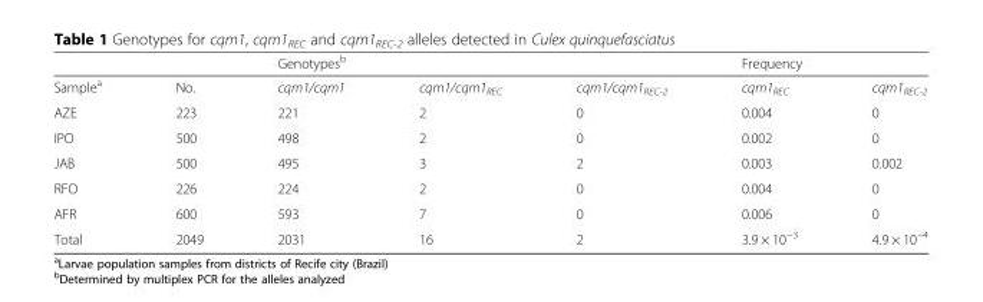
<table><thead><tr><td rowspan="2">Sample<sup>a</sup></td><td rowspan="2">No.</td><td colspan="3">Genotypes<sup>b</sup></td><td colspan="2">Frequency</td></tr><tr><td>cqm1/cqm1</td><td>cqm1/cqm1<sub>REC</sub></td><td>cqm1/cqm1<sub>REC-2</sub></td><td>cqm1<sub>REC</sub></td><td>cqm1<sub>REC-2</sub></td></tr></thead><tbody><tr><td>AZE</td><td>223</td><td>221</td><td>2</td><td>0</td><td>0.004</td><td>0</td></tr><tr><td>IPO</td><td>500</td><td>498</td><td>2</td><td>0</td><td>0.002</td><td>0</td></tr><tr><td>JAB</td><td>500</td><td>495</td><td>3</td><td>2</td><td>0.003</td><td>0.002</td></tr><tr><td>RFO</td><td>226</td><td>224</td><td>2</td><td>0</td><td>0.004</td><td>0</td></tr><tr><td>AFR</td><td>600</td><td>593</td><td>7</td><td>0</td><td>0.006</td><td>0</td></tr><tr><td>Total</td><td>2049</td><td>2031</td><td>16</td><td>2</td><td>3.9 × 10<sup>−3</sup></td><td>4.9 × 10<sup>−4</sup></td></tr></tbody></table>